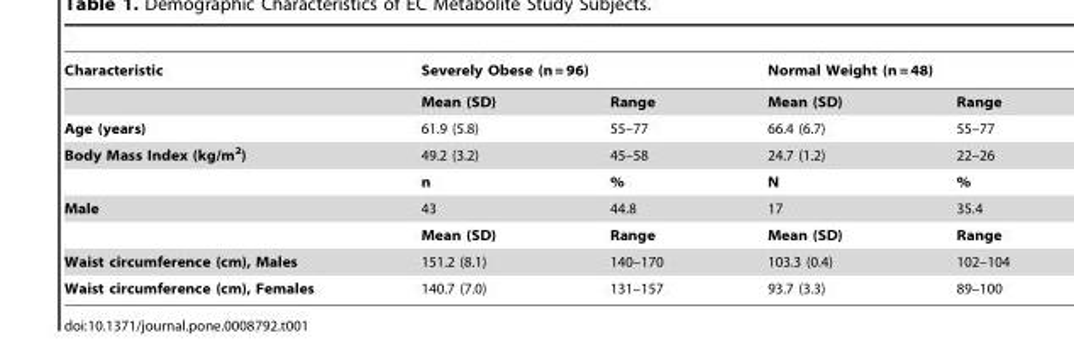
<table><thead><tr><td rowspan="2">Characteristic</td><td colspan="2">Severely Obese (n = 96)</td><td colspan="2">Normal Weight (n = 48)</td></tr><tr><td>Mean (SD)</td><td>Range</td><td>Mean (SD)</td><td>Range</td></tr></thead><tbody><tr><td>Age (years)</td><td>61.9 (5.8)</td><td>55–77</td><td>66.4 (6.7)</td><td>55–77</td></tr><tr><td rowspan="2">Body Mass Index (kg/m<sup>2</sup>)</td><td>49.2 (3.2)</td><td>45–58</td><td>24.7 (1.2)</td><td>22–26</td></tr><tr><td>n</td><td>%</td><td>N</td><td>%</td></tr><tr><td rowspan="2">Male</td><td>43</td><td>44.8</td><td>17</td><td>35.4</td></tr><tr><td>Mean (SD)</td><td>Range</td><td>Mean (SD)</td><td>Range</td></tr><tr><td>Waist circumference (cm), Males</td><td>151.2 (8.1)</td><td>140–170</td><td>103.3 (0.4)</td><td>102–104</td></tr><tr><td>Waist circumference (cm), Females</td><td>140.7 (7.0)</td><td>131–157</td><td>93.7 (3.3)</td><td>89–100</td></tr></tbody></table>